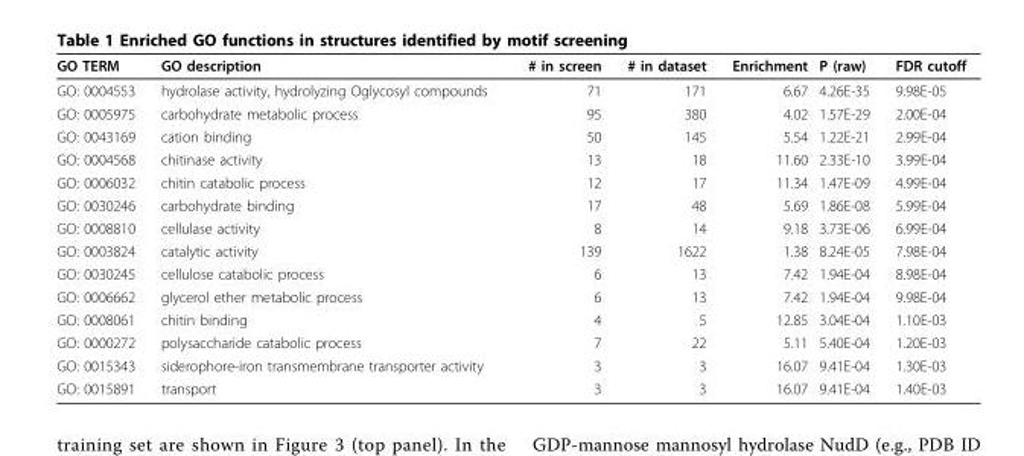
<table><thead><tr><td>GO TERM</td><td>GO description</td><td># in screen</td><td># in dataset</td><td>Enrichment</td><td>P (raw)</td><td>FDR cutoff</td></tr></thead><tbody><tr><td>GO: 0004553</td><td>hydrolase activity, hydrolyzing Oglycosyl compounds</td><td>71</td><td>171</td><td>6.67</td><td>4.26E-35</td><td>9.98E-05</td></tr><tr><td>GO: 0005975</td><td>carbohydrate metabolic process</td><td>95</td><td>380</td><td>4.02</td><td>1.57E-29</td><td>2.00E-04</td></tr><tr><td>GO: 0043169</td><td>cation binding</td><td>50</td><td>145</td><td>5.54</td><td>1.22E-21</td><td>2.99E-04</td></tr><tr><td>GO: 0004568</td><td>chitinase activity</td><td>13</td><td>18</td><td>11.60</td><td>2.33E-10</td><td>3.99E-04</td></tr><tr><td>GO: 0006032</td><td>chitin catabolic process</td><td>12</td><td>17</td><td>11.34</td><td>1.47E-09</td><td>4.99E-04</td></tr><tr><td>GO: 0030246</td><td>carbohydrate binding</td><td>17</td><td>48</td><td>5.69</td><td>1.86E-08</td><td>5.99E-04</td></tr><tr><td>GO: 0008810</td><td>cellulase activity</td><td>8</td><td>14</td><td>9.18</td><td>3.73E-06</td><td>6.99E-04</td></tr><tr><td>GO: 0003824</td><td>catalytic activity</td><td>139</td><td>1622</td><td>1.38</td><td>8.24E-05</td><td>7.98E-04</td></tr><tr><td>GO: 0030245</td><td>cellulose catabolic process</td><td>6</td><td>13</td><td>7.42</td><td>1.94E-04</td><td>8.98E-04</td></tr><tr><td>GO: 0006662</td><td>glycerol ether metabolic process</td><td>6</td><td>13</td><td>7.42</td><td>1.94E-04</td><td>9.98E-04</td></tr><tr><td>GO: 0008061</td><td>chitin binding</td><td>4</td><td>5</td><td>12.85</td><td>3.04E-04</td><td>1.10E-03</td></tr><tr><td>GO: 0000272</td><td>polysaccharide catabolic process</td><td>7</td><td>22</td><td>5.11</td><td>5.40E-04</td><td>1.20E-03</td></tr><tr><td>GO: 0015343</td><td>siderophore-iron transmembrane transporter activity</td><td>3</td><td>3</td><td>16.07</td><td>9.41E-04</td><td>1.30E-03</td></tr><tr><td>GO: 0015891</td><td>transport</td><td>3</td><td>3</td><td>16.07</td><td>9.41E-04</td><td>1.40E-03</td></tr></tbody></table>